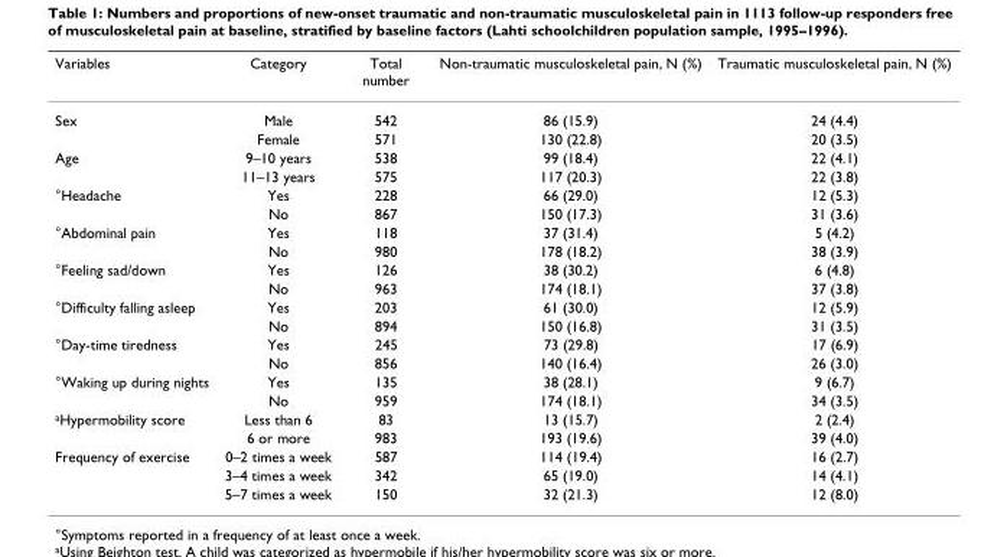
<table><thead><tr><td>Variables</td><td>Category</td><td>Total number</td><td>Non-traumatic musculoskeletal pain, N (%)</td><td>Traumatic musculoskeletal pain, N (%)</td></tr></thead><tbody><tr><td rowspan="2">Sex</td><td>Male</td><td>542</td><td>86 (15.9)</td><td>24 (4.4)</td></tr><tr><td>Female</td><td>571</td><td>130 (22.8)</td><td>20 (3.5)</td></tr><tr><td rowspan="2">Age</td><td>9–10 years</td><td>538</td><td>99 (18.4)</td><td>22 (4.1)</td></tr><tr><td>11–13 years</td><td>575</td><td>117 (20.3)</td><td>22 (3.8)</td></tr><tr><td rowspan="2">°Headache</td><td>Yes</td><td>228</td><td>66 (29.0)</td><td>12 (5.3)</td></tr><tr><td>No</td><td>867</td><td>150 (17.3)</td><td>31 (3.6)</td></tr><tr><td rowspan="2">°Abdominal pain</td><td>Yes</td><td>118</td><td>37 (31.4)</td><td>5 (4.2)</td></tr><tr><td>No</td><td>980</td><td>178 (18.2)</td><td>38 (3.9)</td></tr><tr><td rowspan="2">°Feeling sad/down</td><td>Yes</td><td>126</td><td>38 (30.2)</td><td>6 (4.8)</td></tr><tr><td>No</td><td>963</td><td>174 (18.1)</td><td>37 (3.8)</td></tr><tr><td rowspan="2">°Difficulty falling asleep</td><td>Yes</td><td>203</td><td>61 (30.0)</td><td>12 (5.9)</td></tr><tr><td>No</td><td>894</td><td>150 (16.8)</td><td>31 (3.5)</td></tr><tr><td rowspan="2">°Day-time tiredness</td><td>Yes</td><td>245</td><td>73 (29.8)</td><td>17 (6.9)</td></tr><tr><td>No</td><td>856</td><td>140 (16.4)</td><td>26 (3.0)</td></tr><tr><td rowspan="2">°Waking up during nights</td><td>Yes</td><td>135</td><td>38 (28.1)</td><td>9 (6.7)</td></tr><tr><td>No</td><td>959</td><td>174 (18.1)</td><td>34 (3.5)</td></tr><tr><td rowspan="2">aHypermobility score</td><td>Less than 6</td><td>83</td><td>13 (15.7)</td><td>2 (2.4)</td></tr><tr><td>6 or more</td><td>983</td><td>193 (19.6)</td><td>39 (4.0)</td></tr><tr><td rowspan="3">Frequency of exercise</td><td>0–2 times a week</td><td>587</td><td>114 (19.4)</td><td>16 (2.7)</td></tr><tr><td>3–4 times a week</td><td>342</td><td>65 (19.0)</td><td>14 (4.1)</td></tr><tr><td>5–7 times a week</td><td>150</td><td>32 (21.3)</td><td>12 (8.0)</td></tr></tbody></table>